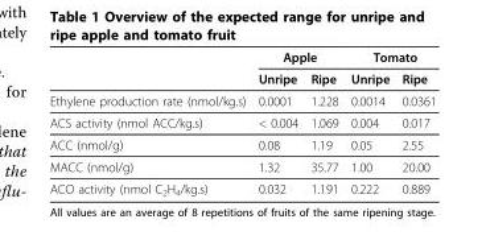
<table><thead><tr><td rowspan="2"></td><td colspan="2">Apple</td><td colspan="2">Tomato</td></tr><tr><td>Unripe</td><td>Ripe</td><td>Unripe</td><td>Ripe</td></tr></thead><tbody><tr><td>Ethylene production rate (nmol/kg.s)</td><td>0.0001</td><td>1.228</td><td>0.0014</td><td>0.0361</td></tr><tr><td>ACS activity (nmol ACC/kg.s)</td><td>&lt; 0.004</td><td>1.069</td><td>0.004</td><td>0.017</td></tr><tr><td>ACC (nmol/g)</td><td>0.08</td><td>1.19</td><td>0.05</td><td>2.55</td></tr><tr><td>MACC (nmol/g)</td><td>1.32</td><td>35.77</td><td>1.00</td><td>20.00</td></tr><tr><td>ACO activity (nmol C<sub>2</sub>H<sub>4</sub>/kg.s)</td><td>0.032</td><td>1.191</td><td>0.222</td><td>0.889</td></tr></tbody></table>